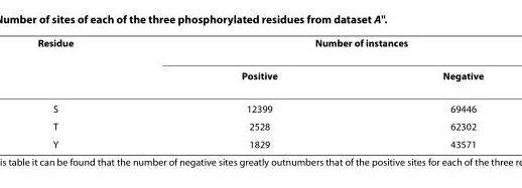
<table><thead><tr><td rowspan="2">Residue</td><td colspan="2">Number of instances</td></tr><tr><td>Positive</td><td>Negative</td></tr></thead><tbody><tr><td>S</td><td>12399</td><td>69446</td></tr><tr><td>T</td><td>2528</td><td>62302</td></tr><tr><td>Y</td><td>1829</td><td>43571</td></tr></tbody></table>